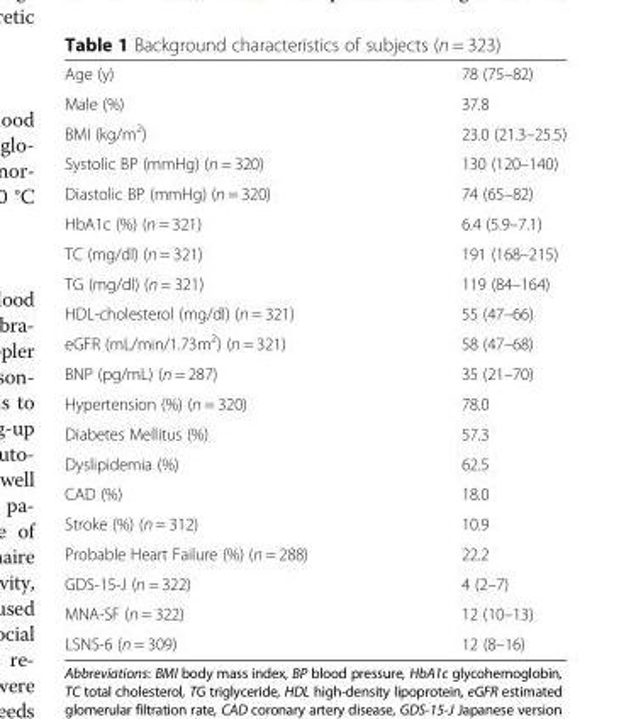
<table><tbody><tr><td>Age (y)</td><td>78 (75–82)</td></tr><tr><td>Male (%)</td><td>37.8</td></tr><tr><td>BMI (kg/m<sup>2</sup>)</td><td>23.0 (21.3–25.5)</td></tr><tr><td>Systolic BP (mmHg) (n = 320)</td><td>130 (120–140)</td></tr><tr><td>Diastolic BP (mmHg) (n = 320)</td><td>74 (65–82)</td></tr><tr><td>HbA1c (%) (n = 321)</td><td>6.4 (5.9–7.1)</td></tr><tr><td>TC (mg/dl) (n = 321)</td><td>191 (168–215)</td></tr><tr><td>TG (mg/dl) (n = 321)</td><td>119 (84–164)</td></tr><tr><td>HDL-cholesterol (mg/dl) (n = 321)</td><td>55 (47–66)</td></tr><tr><td>eGFR (mL/min/1.73m<sup>2</sup>) (n = 321)</td><td>58 (47–68)</td></tr><tr><td>BNP (pg/mL) (n = 287)</td><td>35 (21–70)</td></tr><tr><td>Hypertension (%) (n = 320)</td><td>78.0</td></tr><tr><td>Diabetes Mellitus (%)</td><td>57.3</td></tr><tr><td>Dyslipidemia (%)</td><td>62.5</td></tr><tr><td>CAD (%)</td><td>18.0</td></tr><tr><td>Stroke (%) (n = 312)</td><td>10.9</td></tr><tr><td>Probable Heart Failure (%) (n = 288)</td><td>22.2</td></tr><tr><td>GDS-15-J (n = 322)</td><td>4 (2–7)</td></tr><tr><td>MNA-SF (n = 322)</td><td>12 (10–13)</td></tr><tr><td>LSNS-6 (n = 309)</td><td>12 (8–16)</td></tr></tbody></table>